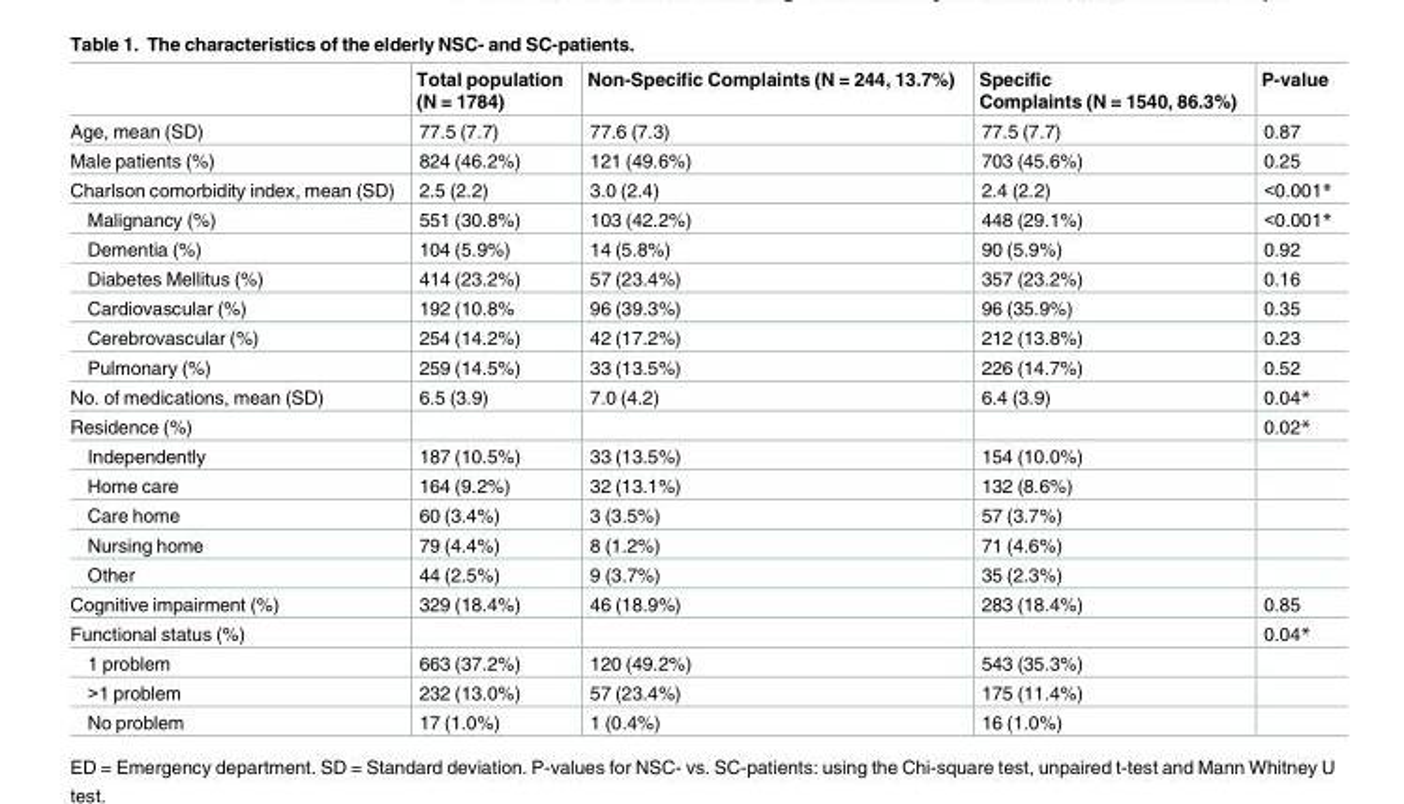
<table><thead><tr><td></td><td>Total population (N = 1784)</td><td>Non-Specific Complaints (N = 244, 13.7%)</td><td>Specific Complaints (N = 1540, 86.3%)</td><td>P-value</td></tr></thead><tbody><tr><td>Age, mean (SD)</td><td>77.5 (7.7)</td><td>77.6 (7.3)</td><td>77.5 (7.7)</td><td>0.87</td></tr><tr><td>Male patients (%)</td><td>824 (46.2%)</td><td>121 (49.6%)</td><td>703 (45.6%)</td><td>0.25</td></tr><tr><td>Charlson comorbidity index, mean (SD)</td><td>2.5 (2.2)</td><td>3.0 (2.4)</td><td>2.4 (2.2)</td><td>&lt;0.001*</td></tr><tr><td>Malignancy (%)</td><td>551 (30.8%)</td><td>103 (42.2%)</td><td>448 (29.1%)</td><td>&lt;0.001*</td></tr><tr><td>Dementia (%)</td><td>104 (5.9%)</td><td>14 (5.8%)</td><td>90 (5.9%)</td><td>0.92</td></tr><tr><td>Diabetes Mellitus (%)</td><td>414 (23.2%)</td><td>57 (23.4%)</td><td>357 (23.2%)</td><td>0.16</td></tr><tr><td>Cardiovascular (%)</td><td>192 (10.8%</td><td>96 (39.3%)</td><td>96 (35.9%)</td><td>0.35</td></tr><tr><td>Cerebrovascular (%)</td><td>254 (14.2%)</td><td>42 (17.2%)</td><td>212 (13.8%)</td><td>0.23</td></tr><tr><td>Pulmonary (%)</td><td>259 (14.5%)</td><td>33 (13.5%)</td><td>226 (14.7%)</td><td>0.52</td></tr><tr><td>No. of medications, mean (SD)</td><td>6.5 (3.9)</td><td>7.0 (4.2)</td><td>6.4 (3.9)</td><td>0.04*</td></tr><tr><td>Residence (%)</td><td></td><td></td><td></td><td>0.02*</td></tr><tr><td>Independently</td><td>187 (10.5%)</td><td>33 (13.5%)</td><td>154 (10.0%)</td><td></td></tr><tr><td>Home care</td><td>164 (9.2%)</td><td>32 (13.1%)</td><td>132 (8.6%)</td><td></td></tr><tr><td>Care home</td><td>60 (3.4%)</td><td>3 (3.5%)</td><td>57 (3.7%)</td><td></td></tr><tr><td>Nursing home</td><td>79 (4.4%)</td><td>8 (1.2%)</td><td>71 (4.6%)</td><td></td></tr><tr><td>Other</td><td>44 (2.5%)</td><td>9 (3.7%)</td><td>35 (2.3%)</td><td></td></tr><tr><td>Cognitive impairment (%)</td><td>329 (18.4%)</td><td>46 (18.9%)</td><td>283 (18.4%)</td><td>0.85</td></tr><tr><td>Functional status (%)</td><td></td><td></td><td></td><td>0.04*</td></tr><tr><td>1 problem</td><td>663 (37.2%)</td><td>120 (49.2%)</td><td>543 (35.3%)</td><td></td></tr><tr><td>&gt;1 problem</td><td>232 (13.0%)</td><td>57 (23.4%)</td><td>175 (11.4%)</td><td></td></tr><tr><td>No problem</td><td>17 (1.0%)</td><td>1 (0.4%)</td><td>16 (1.0%)</td><td></td></tr></tbody></table>